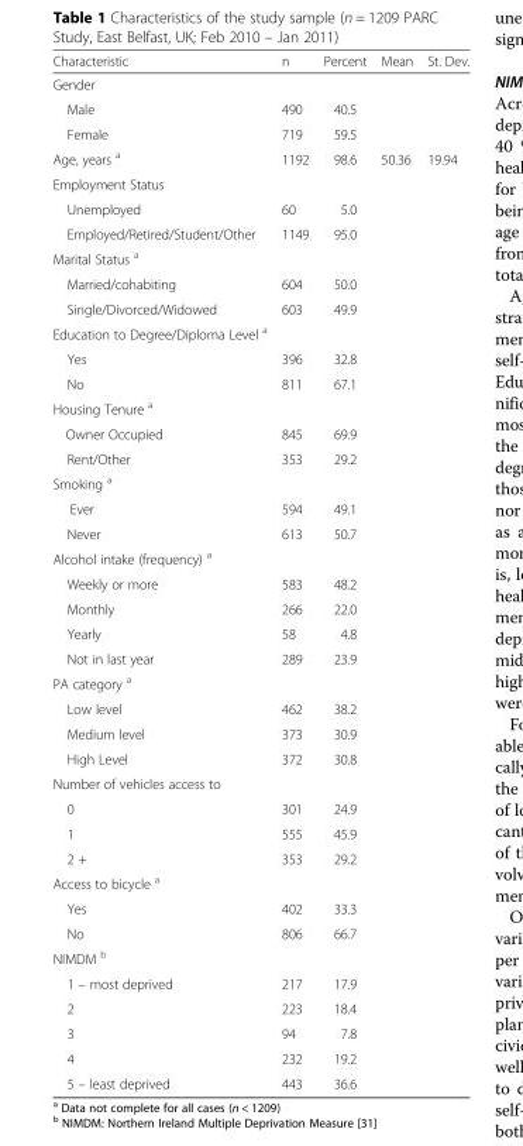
<table><thead><tr><td>Characteristic</td><td>n</td><td>Percent</td><td>Mean</td><td>St. Dev.</td></tr></thead><tbody><tr><td colspan="5">Gender</td></tr><tr><td>Male</td><td>490</td><td>40.5</td><td></td><td></td></tr><tr><td>Female</td><td>719</td><td>59.5</td><td></td><td></td></tr><tr><td>Age, years <sup>a</sup></td><td>1192</td><td>98.6</td><td>50.36</td><td>19.94</td></tr><tr><td colspan="5">Employment Status</td></tr><tr><td>Unemployed</td><td>60</td><td>5.0</td><td></td><td></td></tr><tr><td>Employed/Retired/Student/Other</td><td>1149</td><td>95.0</td><td></td><td></td></tr><tr><td colspan="5">Marital Status <sup>a</sup></td></tr><tr><td>Married/cohabiting</td><td>604</td><td>50.0</td><td></td><td></td></tr><tr><td>Single/Divorced/Widowed</td><td>603</td><td>49.9</td><td></td><td></td></tr><tr><td colspan="5">Education to Degree/Diploma Level <sup>a</sup></td></tr><tr><td>Yes</td><td>396</td><td>32.8</td><td></td><td></td></tr><tr><td>No</td><td>811</td><td>67.1</td><td></td><td></td></tr><tr><td colspan="5">Housing Tenure <sup>a</sup></td></tr><tr><td>Owner Occupied</td><td>845</td><td>69.9</td><td></td><td></td></tr><tr><td>Rent/Other</td><td>353</td><td>29.2</td><td></td><td></td></tr><tr><td colspan="5">Smoking <sup>a</sup></td></tr><tr><td>Ever</td><td>594</td><td>49.1</td><td></td><td></td></tr><tr><td>Never</td><td>613</td><td>50.7</td><td></td><td></td></tr><tr><td colspan="5">Alcohol intake (frequency) <sup>a</sup></td></tr><tr><td>Weekly or more</td><td>583</td><td>48.2</td><td></td><td></td></tr><tr><td>Monthly</td><td>266</td><td>22.0</td><td></td><td></td></tr><tr><td>Yearly</td><td>58</td><td>4.8</td><td></td><td></td></tr><tr><td>Not in last year</td><td>289</td><td>23.9</td><td></td><td></td></tr><tr><td colspan="5">PA category <sup>a</sup></td></tr><tr><td>Low level</td><td>462</td><td>38.2</td><td></td><td></td></tr><tr><td>Medium level</td><td>373</td><td>30.9</td><td></td><td></td></tr><tr><td>High Level</td><td>372</td><td>30.8</td><td></td><td></td></tr><tr><td colspan="5">Number of vehicles access to</td></tr><tr><td>0</td><td>301</td><td>24.9</td><td></td><td></td></tr><tr><td>1</td><td>555</td><td>45.9</td><td></td><td></td></tr><tr><td>2 +</td><td>353</td><td>29.2</td><td></td><td></td></tr><tr><td colspan="5">Access to bicycle <sup>a</sup></td></tr><tr><td>Yes</td><td>402</td><td>33.3</td><td></td><td></td></tr><tr><td>No</td><td>806</td><td>66.7</td><td></td><td></td></tr><tr><td colspan="5">NIMDM <sup>b</sup></td></tr><tr><td>1 – most deprived</td><td>217</td><td>17.9</td><td></td><td></td></tr><tr><td>2</td><td>223</td><td>18.4</td><td></td><td></td></tr><tr><td>3</td><td>94</td><td>7.8</td><td></td><td></td></tr><tr><td>4</td><td>232</td><td>19.2</td><td></td><td></td></tr><tr><td>5 – least deprived</td><td>443</td><td>36.6</td><td></td><td></td></tr></tbody></table>